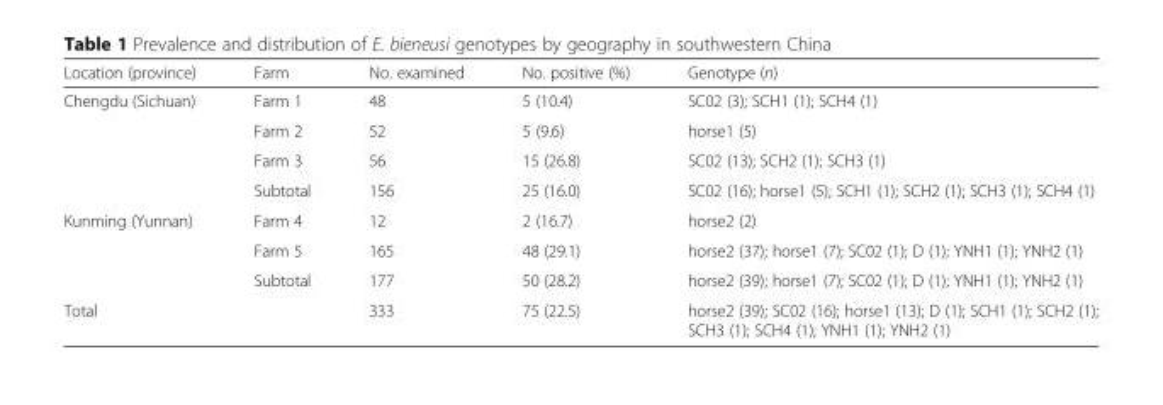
<table><thead><tr><td>Location (province)</td><td>Farm</td><td>No. examined</td><td>No. positive (%)</td><td>Genotype (n)</td></tr></thead><tbody><tr><td rowspan="4">Chengdu (Sichuan)</td><td>Farm 1</td><td>48</td><td>5 (10.4)</td><td>SC02 (3); SCH1 (1); SCH4 (1)</td></tr><tr><td>Farm 2</td><td>52</td><td>5 (9.6)</td><td>horse1 (5)</td></tr><tr><td>Farm 3</td><td>56</td><td>15 (26.8)</td><td>SC02 (13); SCH2 (1); SCH3 (1)</td></tr><tr><td>Subtotal</td><td>156</td><td>25 (16.0)</td><td>SC02 (16); horse1 (5); SCH1 (1); SCH2 (1); SCH3 (1); SCH4 (1)</td></tr><tr><td rowspan="3">Kunming (Yunnan)</td><td>Farm 4</td><td>12</td><td>2 (16.7)</td><td>horse2 (2)</td></tr><tr><td>Farm 5</td><td>165</td><td>48 (29.1)</td><td>horse2 (37); horse1 (7); SC02 (1); D (1); YNH1 (1); YNH2 (1)</td></tr><tr><td>Subtotal</td><td>177</td><td>50 (28.2)</td><td>horse2 (39); horse1 (7); SC02 (1); D (1); YNH1 (1); YNH2 (1)</td></tr><tr><td>Total</td><td></td><td>333</td><td>75 (22.5)</td><td>horse2 (39); SC02 (16); horse1 (13); D (1); SCH1 (1); SCH2 (1); SCH3 (1); SCH4 (1); YNH1 (1); YNH2 (1)</td></tr></tbody></table>